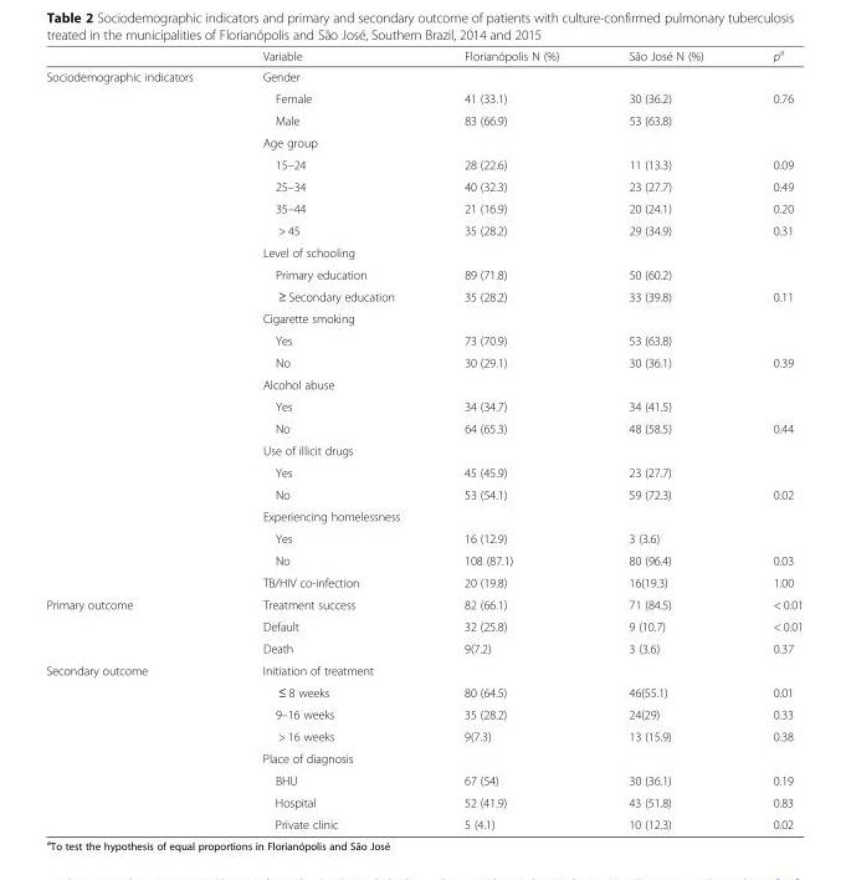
<table><thead><tr><td></td><td>Variable</td><td>Florianópolis N (%)</td><td>São José N (%)</td><td>p<sup>a</sup></td></tr></thead><tbody><tr><td rowspan="24">Sociodemographic indicators</td><td colspan="4">Gender</td></tr><tr><td>Female</td><td>41 (33.1)</td><td>30 (36.2)</td><td>0.76</td></tr><tr><td>Male</td><td>83 (66.9)</td><td>53 (63.8)</td><td></td></tr><tr><td colspan="4">Age group</td></tr><tr><td>15–24</td><td>28 (22.6)</td><td>11 (13.3)</td><td>0.09</td></tr><tr><td>25–34</td><td>40 (32.3)</td><td>23 (27.7)</td><td>0.49</td></tr><tr><td>35–44</td><td>21 (16.9)</td><td>20 (24.1)</td><td>0.20</td></tr><tr><td>&gt; 45</td><td>35 (28.2)</td><td>29 (34.9)</td><td>0.31</td></tr><tr><td colspan="4">Level of schooling</td></tr><tr><td>Primary education</td><td>89 (71.8)</td><td>50 (60.2)</td><td></td></tr><tr><td>≥ Secondary education</td><td>35 (28.2)</td><td>33 (39.8)</td><td>0.11</td></tr><tr><td colspan="4">Cigarette smoking</td></tr><tr><td>Yes</td><td>73 (70.9)</td><td>53 (63.8)</td><td></td></tr><tr><td>No</td><td>30 (29.1)</td><td>30 (36.1)</td><td>0.39</td></tr><tr><td colspan="4">Alcohol abuse</td></tr><tr><td>Yes</td><td>34 (34.7)</td><td>34 (41.5)</td><td></td></tr><tr><td>No</td><td>64 (65.3)</td><td>48 (58.5)</td><td>0.44</td></tr><tr><td colspan="4">Use of illicit drugs</td></tr><tr><td>Yes</td><td>45 (45.9)</td><td>23 (27.7)</td><td></td></tr><tr><td>No</td><td>53 (54.1)</td><td>59 (72.3)</td><td>0.02</td></tr><tr><td colspan="4">Experiencing homelessness</td></tr><tr><td>Yes</td><td>16 (12.9)</td><td>3 (3.6)</td><td></td></tr><tr><td>No</td><td>108 (87.1)</td><td>80 (96.4)</td><td>0.03</td></tr><tr><td>TB/HIV co-infection</td><td>20 (19.8)</td><td>16(19.3)</td><td>1.00</td></tr><tr><td rowspan="3">Primary outcome</td><td>Treatment success</td><td>82 (66.1)</td><td>71 (84.5)</td><td>&lt; 0.01</td></tr><tr><td>Default</td><td>32 (25.8)</td><td>9 (10.7)</td><td>&lt; 0.01</td></tr><tr><td>Death</td><td>9(7.2)</td><td>3 (3.6)</td><td>0.37</td></tr><tr><td rowspan="8">Secondary outcome</td><td colspan="4">Initiation of treatment</td></tr><tr><td>≤ 8 weeks</td><td>80 (64.5)</td><td>46(55.1)</td><td>0.01</td></tr><tr><td>9–16 weeks</td><td>35 (28.2)</td><td>24(29)</td><td>0.33</td></tr><tr><td>&gt; 16 weeks</td><td>9(7.3)</td><td>13 (15.9)</td><td>0.38</td></tr><tr><td colspan="4">Place of diagnosis</td></tr><tr><td>BHU</td><td>67 (54)</td><td>30 (36.1)</td><td>0.19</td></tr><tr><td>Hospital</td><td>52 (41.9)</td><td>43 (51.8)</td><td>0.83</td></tr><tr><td>Private clinic</td><td>5 (4.1)</td><td>10 (12.3)</td><td>0.02</td></tr></tbody></table>